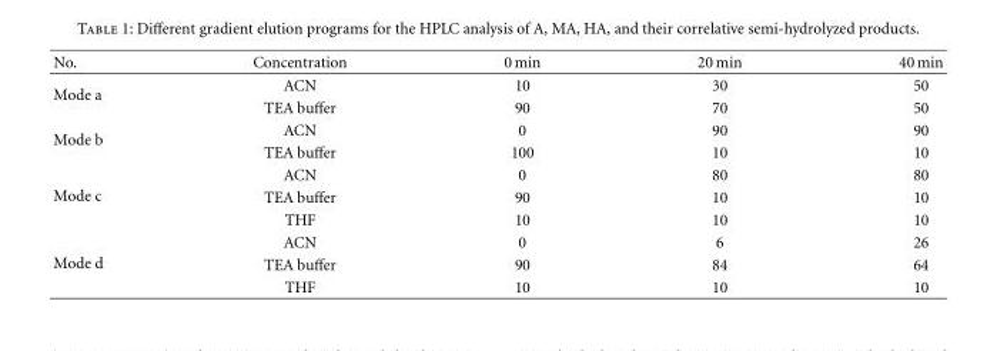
<table><thead><tr><td>No.</td><td>Concentration</td><td>0 min</td><td>20 min</td><td>40 min</td></tr></thead><tbody><tr><td rowspan="2">Mode a</td><td>ACN</td><td>10</td><td>30</td><td>50</td></tr><tr><td>TEA buffer</td><td>90</td><td>70</td><td>50</td></tr><tr><td rowspan="2">Mode b</td><td>ACN</td><td>0</td><td>90</td><td>90</td></tr><tr><td>TEA buffer</td><td>100</td><td>10</td><td>10</td></tr><tr><td rowspan="3">Mode c</td><td>ACN</td><td>0</td><td>80</td><td>80</td></tr><tr><td>TEA buffer</td><td>90</td><td>10</td><td>10</td></tr><tr><td>THF</td><td>10</td><td>10</td><td>10</td></tr><tr><td rowspan="3">Mode d</td><td>ACN</td><td>0</td><td>6</td><td>26</td></tr><tr><td>TEA buffer</td><td>90</td><td>84</td><td>64</td></tr><tr><td>THF</td><td>10</td><td>10</td><td>10</td></tr></tbody></table>